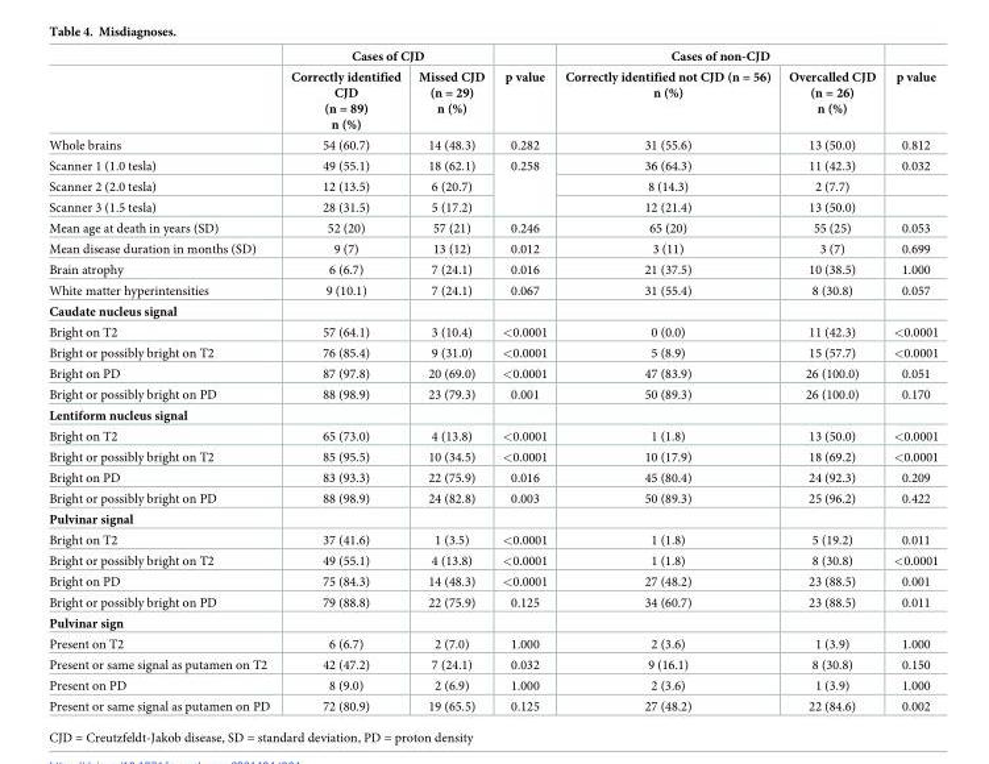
<table><thead><tr><td rowspan="2"></td><td colspan="2">Cases of CJD</td><td rowspan="2">p value</td><td colspan="2">Cases of non-CJD</td><td rowspan="2">p value</td></tr><tr><td>Correctly identified CJD (n = 89) n (%)</td><td>Missed CJD (n = 29) n (%)</td><td>Correctly identified not CJD (n = 56) n (%)</td><td>Overcalled CJD (n = 26) n (%)</td></tr></thead><tbody><tr><td>Whole brains</td><td>54 (60.7)</td><td>14 (48.3)</td><td>0.282</td><td>31 (55.6)</td><td>13 (50.0)</td><td>0.812</td></tr><tr><td>Scanner 1 (1.0 tesla)</td><td>49 (55.1)</td><td>18 (62.1)</td><td rowspan="3">0.258</td><td>36 (64.3)</td><td>11 (42.3)</td><td>0.032</td></tr><tr><td>Scanner 2 (2.0 tesla)</td><td>12 (13.5)</td><td>6 (20.7)</td><td>8 (14.3)</td><td>2 (7.7)</td><td></td></tr><tr><td>Scanner 3 (1.5 tesla)</td><td>28 (31.5)</td><td>5 (17.2)</td><td>12 (21.4)</td><td>13 (50.0)</td><td></td></tr><tr><td>Mean age at death in years (SD)</td><td>52 (20)</td><td>57 (21)</td><td>0.246</td><td>65 (20)</td><td>55 (25)</td><td>0.053</td></tr><tr><td>Mean disease duration in months (SD)</td><td>9 (7)</td><td>13 (12)</td><td>0.012</td><td>3 (11)</td><td>3 (7)</td><td>0.699</td></tr><tr><td>Brain atrophy</td><td>6 (6.7)</td><td>7 (24.1)</td><td>0.016</td><td>21 (37.5)</td><td>10 (38.5)</td><td>1.000</td></tr><tr><td>White matter hyperintensities</td><td>9 (10.1)</td><td>7 (24.1)</td><td>0.067</td><td>31 (55.4)</td><td>8 (30.8)</td><td>0.057</td></tr><tr><td colspan="7">Caudate nucleus signal</td></tr><tr><td>Bright on T2</td><td>57 (64.1)</td><td>3 (10.4)</td><td>&lt;0.0001</td><td>0 (0.0)</td><td>11 (42.3)</td><td>&lt;0.0001</td></tr><tr><td>Bright or possibly bright on T2</td><td>76 (85.4)</td><td>9 (31.0)</td><td>&lt;0.0001</td><td>5 (8.9)</td><td>15 (57.7)</td><td>&lt;0.0001</td></tr><tr><td>Bright on PD</td><td>87 (97.8)</td><td>20 (69.0)</td><td>&lt;0.0001</td><td>47 (83.9)</td><td>26 (100.0)</td><td>0.051</td></tr><tr><td>Bright or possibly bright on PD</td><td>88 (98.9)</td><td>23 (79.3)</td><td>0.001</td><td>50 (89.3)</td><td>26 (100.0)</td><td>0.170</td></tr><tr><td colspan="7">Lentiform nucleus signal</td></tr><tr><td>Bright on T2</td><td>65 (73.0)</td><td>4 (13.8)</td><td>&lt;0.0001</td><td>1 (1.8)</td><td>13 (50.0)</td><td>&lt;0.0001</td></tr><tr><td>Bright or possibly bright on T2</td><td>85 (95.5)</td><td>10 (34.5)</td><td>&lt;0.0001</td><td>10 (17.9)</td><td>18 (69.2)</td><td>&lt;0.0001</td></tr><tr><td>Bright on PD</td><td>83 (93.3)</td><td>22 (75.9)</td><td>0.016</td><td>45 (80.4)</td><td>24 (92.3)</td><td>0.209</td></tr><tr><td>Bright or possibly bright on PD</td><td>88 (98.9)</td><td>24 (82.8)</td><td>0.003</td><td>50 (89.3)</td><td>25 (96.2)</td><td>0.422</td></tr><tr><td colspan="7">Pulvinar signal</td></tr><tr><td>Bright on T2</td><td>37 (41.6)</td><td>1 (3.5)</td><td>&lt;0.0001</td><td>1 (1.8)</td><td>5 (19.2)</td><td>0.011</td></tr><tr><td>Bright or possibly bright on T2</td><td>49 (55.1)</td><td>4 (13.8)</td><td>&lt;0.0001</td><td>1 (1.8)</td><td>8 (30.8)</td><td>&lt;0.0001</td></tr><tr><td>Bright on PD</td><td>75 (84.3)</td><td>14 (48.3)</td><td>&lt;0.0001</td><td>27 (48.2)</td><td>23 (88.5)</td><td>0.001</td></tr><tr><td>Bright or possibly bright on PD</td><td>79 (88.8)</td><td>22 (75.9)</td><td>0.125</td><td>34 (60.7)</td><td>23 (88.5)</td><td>0.011</td></tr><tr><td colspan="7">Pulvinar sign</td></tr><tr><td>Present on T2</td><td>6 (6.7)</td><td>2 (7.0)</td><td>1.000</td><td>2 (3.6)</td><td>1 (3.9)</td><td>1.000</td></tr><tr><td>Present or same signal as putamen on T2</td><td>42 (47.2)</td><td>7 (24.1)</td><td>0.032</td><td>9 (16.1)</td><td>8 (30.8)</td><td>0.150</td></tr><tr><td>Present on PD</td><td>8 (9.0)</td><td>2 (6.9)</td><td>1.000</td><td>2 (3.6)</td><td>1 (3.9)</td><td>1.000</td></tr><tr><td>Present or same signal as putamen on PD</td><td>72 (80.9)</td><td>19 (65.5)</td><td>0.125</td><td>27 (48.2)</td><td>22 (84.6)</td><td>0.002</td></tr></tbody></table>